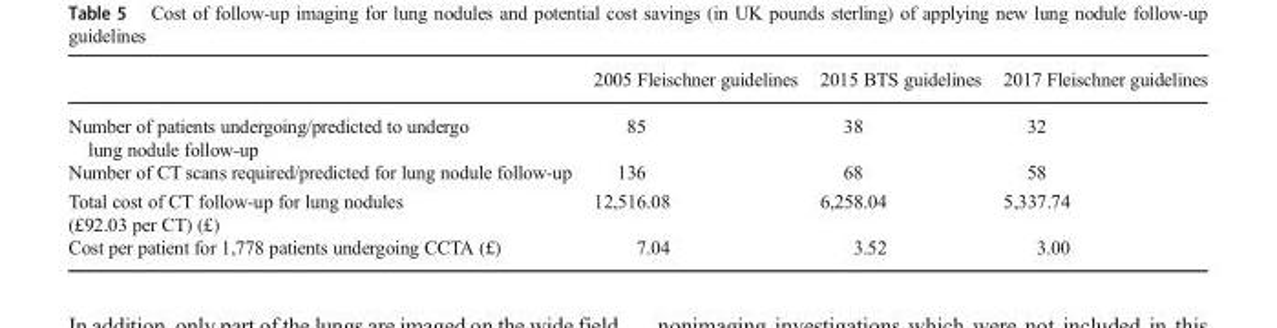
<table><thead><tr><td></td><td>2005 Fleischner guidelines</td><td>2015 BTS guidelines</td><td>2017 Fleischner guidelines</td></tr></thead><tbody><tr><td>Number of patients undergoing/predicted to undergo lung nodule follow-up</td><td>85</td><td>38</td><td>32</td></tr><tr><td>Number of CT scans required/predicted for lung nodule follow-up</td><td>136</td><td>68</td><td>58</td></tr><tr><td>Total cost of CT follow-up for lung nodules (£92.03 per CT) (£)</td><td>12,516.08</td><td>6,258.04</td><td>5,337.74</td></tr><tr><td>Cost per patient for 1,778 patients undergoing CCTA (£)</td><td>7.04</td><td>3.52</td><td>3.00</td></tr></tbody></table>